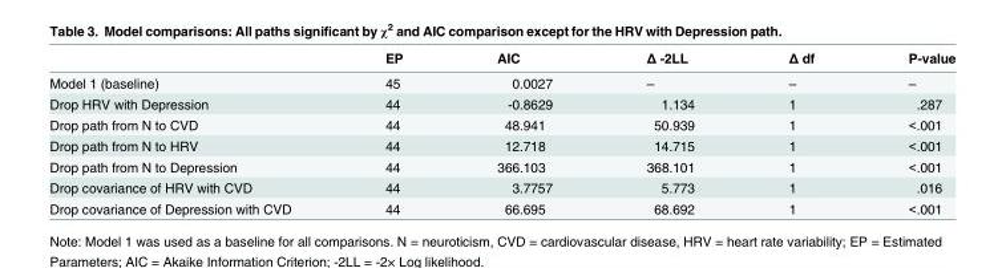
<table><thead><tr><td></td><td>EP</td><td>AIC</td><td>Δ -2LL</td><td>Δ df</td><td>P-value</td></tr></thead><tbody><tr><td>Model 1 (baseline)</td><td>45</td><td>0.0027</td><td>–</td><td>–</td><td>–</td></tr><tr><td>Drop HRV with Depression</td><td>44</td><td>-0.8629</td><td>1.134</td><td>1</td><td>.287</td></tr><tr><td>Drop path from N to CVD</td><td>44</td><td>48.941</td><td>50.939</td><td>1</td><td>&lt;.001</td></tr><tr><td>Drop path from N to HRV</td><td>44</td><td>12.718</td><td>14.715</td><td>1</td><td>&lt;.001</td></tr><tr><td>Drop path from N to Depression</td><td>44</td><td>366.103</td><td>368.101</td><td>1</td><td>&lt;.001</td></tr><tr><td>Drop covariance of HRV with CVD</td><td>44</td><td>3.7757</td><td>5.773</td><td>1</td><td>.016</td></tr><tr><td>Drop covariance of Depression with CVD</td><td>44</td><td>66.695</td><td>68.692</td><td>1</td><td>&lt;.001</td></tr></tbody></table>